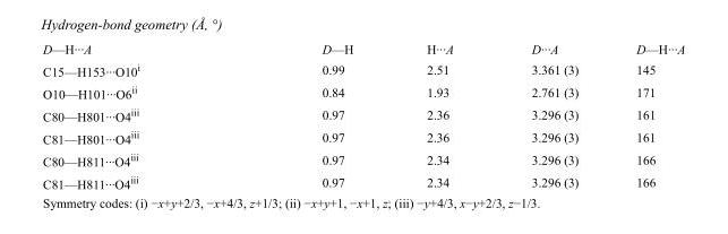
<table><tbody><tr><td>D—H···A</td><td>D—H</td><td>H···A</td><td>D···A</td><td>D—H···A</td></tr><tr><td>C15—H153···O10<sup>i</sup></td><td>0.99</td><td>2.51</td><td>3.361 (3)</td><td>145</td></tr><tr><td>O10—H101···O6<sup>ii</sup></td><td>0.84</td><td>1.93</td><td>2.761 (3)</td><td>171</td></tr><tr><td>C80—H801···O4<sup>iii</sup></td><td>0.97</td><td>2.36</td><td>3.296 (3)</td><td>161</td></tr><tr><td>C81—H801···O4<sup>iii</sup></td><td>0.97</td><td>2.36</td><td>3.296 (3)</td><td>161</td></tr><tr><td>C80—H811···O4<sup>iii</sup></td><td>0.97</td><td>2.34</td><td>3.296 (3)</td><td>166</td></tr><tr><td>C81—H811···O4<sup>iii</sup></td><td>0.97</td><td>2.34</td><td>3.296 (3)</td><td>166</td></tr></tbody></table>